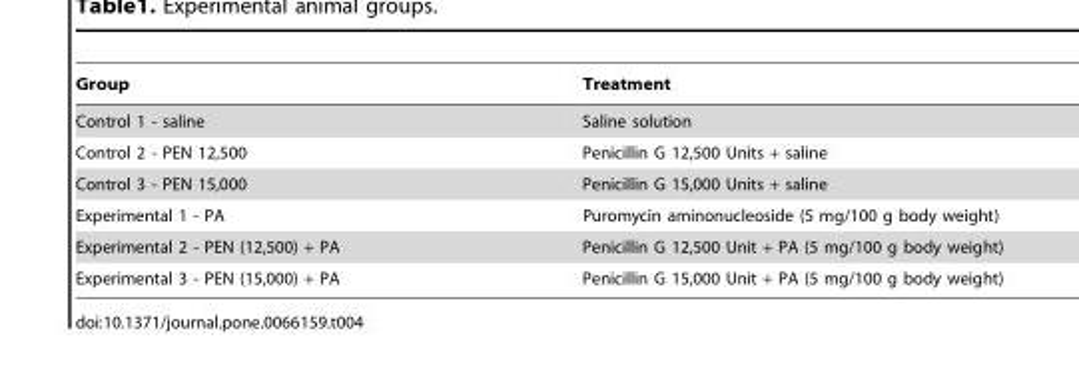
<table><thead><tr><td>Group</td><td>Treatment</td></tr></thead><tbody><tr><td>Control 1 - saline</td><td>Saline solution</td></tr><tr><td>Control 2 - PEN 12,500</td><td>Penicillin G 12,500 Units + saline</td></tr><tr><td>Control 3 - PEN 15,000</td><td>Penicillin G 15,000 Units + saline</td></tr><tr><td>Experimental 1 - PA</td><td>Puromycin aminonucleoside (5 mg/100 g body weight)</td></tr><tr><td>Experimental 2 - PEN (12,500) + PA</td><td>Penicillin G 12,500 Unit + PA (5 mg/100 g body weight)</td></tr><tr><td>Experimental 3 - PEN (15,000) + PA</td><td>Penicillin G 15,000 Unit + PA (5 mg/100 g body weight)</td></tr></tbody></table>